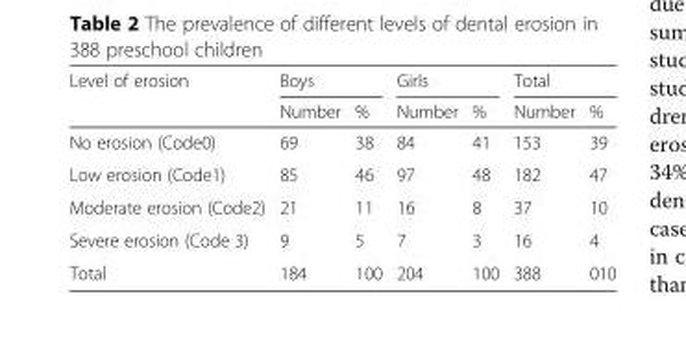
<table><thead><tr><td rowspan="2">Level of erosion</td><td colspan="2">Boys</td><td colspan="2">Girls</td><td colspan="2">Total</td></tr><tr><td>Number</td><td>%</td><td>Number</td><td>%</td><td>Number</td><td>%</td></tr></thead><tbody><tr><td>No erosion (Code0)</td><td>69</td><td>38</td><td>84</td><td>41</td><td>153</td><td>39</td></tr><tr><td>Low erosion (Code1)</td><td>85</td><td>46</td><td>97</td><td>48</td><td>182</td><td>47</td></tr><tr><td>Moderate erosion (Code2)</td><td>21</td><td>11</td><td>16</td><td>8</td><td>37</td><td>10</td></tr><tr><td>Severe erosion (Code 3)</td><td>9</td><td>5</td><td>7</td><td>3</td><td>16</td><td>4</td></tr><tr><td>Total</td><td>184</td><td>100</td><td>204</td><td>100</td><td>388</td><td>010</td></tr></tbody></table>